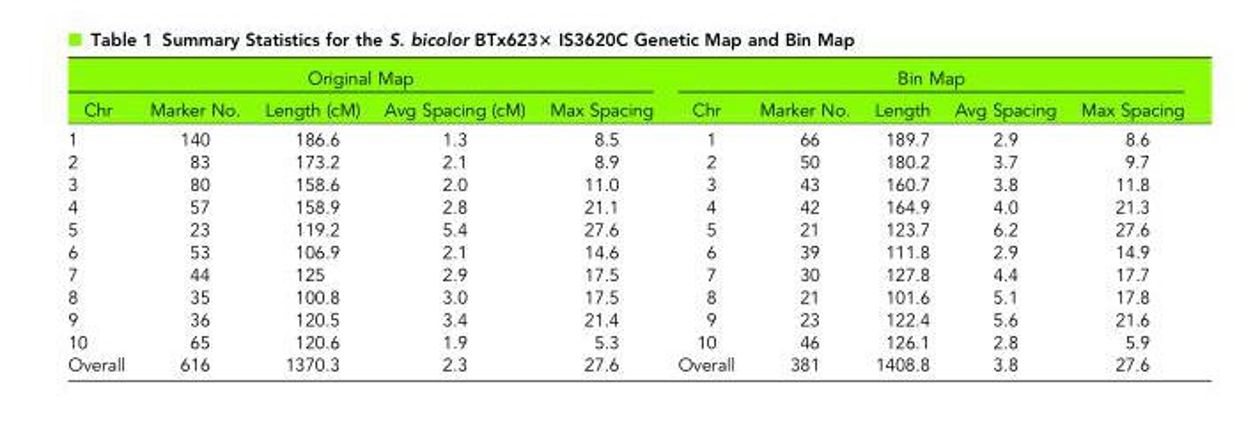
<table><thead><tr><td colspan="5">Original Map</td><td colspan="5">Bin Map</td></tr><tr><td>Chr</td><td>Marker No.</td><td>Length (cM)</td><td>Avg Spacing (cM)</td><td>Max Spacing</td><td>Chr</td><td>Marker No.</td><td>Length</td><td>Avg Spacing</td><td>Max Spacing</td></tr></thead><tbody><tr><td>1</td><td>140</td><td>186.6</td><td>1.3</td><td>8.5</td><td>1</td><td>66</td><td>189.7</td><td>2.9</td><td>8.6</td></tr><tr><td>2</td><td>83</td><td>173.2</td><td>2.1</td><td>8.9</td><td>2</td><td>50</td><td>180.2</td><td>3.7</td><td>9.7</td></tr><tr><td>3</td><td>80</td><td>158.6</td><td>2.0</td><td>11.0</td><td>3</td><td>43</td><td>160.7</td><td>3.8</td><td>11.8</td></tr><tr><td>4</td><td>57</td><td>158.9</td><td>2.8</td><td>21.1</td><td>4</td><td>42</td><td>164.9</td><td>4.0</td><td>21.3</td></tr><tr><td>5</td><td>23</td><td>119.2</td><td>5.4</td><td>27.6</td><td>5</td><td>21</td><td>123.7</td><td>6.2</td><td>27.6</td></tr><tr><td>6</td><td>53</td><td>106.9</td><td>2.1</td><td>14.6</td><td>6</td><td>39</td><td>111.8</td><td>2.9</td><td>14.9</td></tr><tr><td>7</td><td>44</td><td>125</td><td>2.9</td><td>17.5</td><td>7</td><td>30</td><td>127.8</td><td>4.4</td><td>17.7</td></tr><tr><td>8</td><td>35</td><td>100.8</td><td>3.0</td><td>17.5</td><td>8</td><td>21</td><td>101.6</td><td>5.1</td><td>17.8</td></tr><tr><td>9</td><td>36</td><td>120.5</td><td>3.4</td><td>21.4</td><td>9</td><td>23</td><td>122.4</td><td>5.6</td><td>21.6</td></tr><tr><td>10</td><td>65</td><td>120.6</td><td>1.9</td><td>5.3</td><td>10</td><td>46</td><td>126.1</td><td>2.8</td><td>5.9</td></tr><tr><td>Overall</td><td>616</td><td>1370.3</td><td>2.3</td><td>27.6</td><td>Overall</td><td>381</td><td>1408.8</td><td>3.8</td><td>27.6</td></tr></tbody></table>